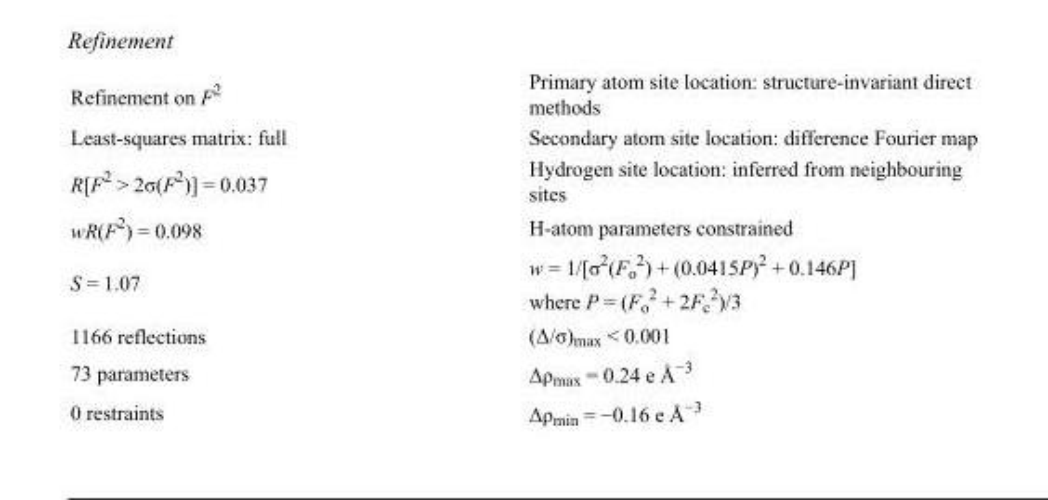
<table><tbody><tr><td>Refinement on F<sup>2</sup></td><td>Primary atom site location: structure-invariant direct methods</td></tr><tr><td>Least-squares matrix: full</td><td>Secondary atom site location: difference Fourier map</td></tr><tr><td>R[F<sup>2</sup> &gt; 2σ(F<sup>2</sup>)] = 0.037</td><td>Hydrogen site location: inferred from neighbouring sites</td></tr><tr><td>wR(F<sup>2</sup>) = 0.098</td><td>H-atom parameters constrained</td></tr><tr><td>S = 1.07</td><td>w = 1/[σ<sup>2</sup>(F<sub>o</sub> <sup>2</sup>) + (0.0415P)<sup>2</sup> + 0.146P] where P = (F<sub>o</sub> <sup>2</sup> + 2F<sub>c</sub> <sup>2</sup>)/3</td></tr><tr><td>1166 reflections</td><td>(Δ/σ)<sub>max</sub> &lt; 0.001</td></tr><tr><td>73 parameters</td><td>Δρ<sub>max</sub> = 0.24 e Å<sup>−3</sup></td></tr><tr><td>0 restraints</td><td>Δρ<sub>min</sub> = −0.16 e Å<sup>−3</sup></td></tr></tbody></table>